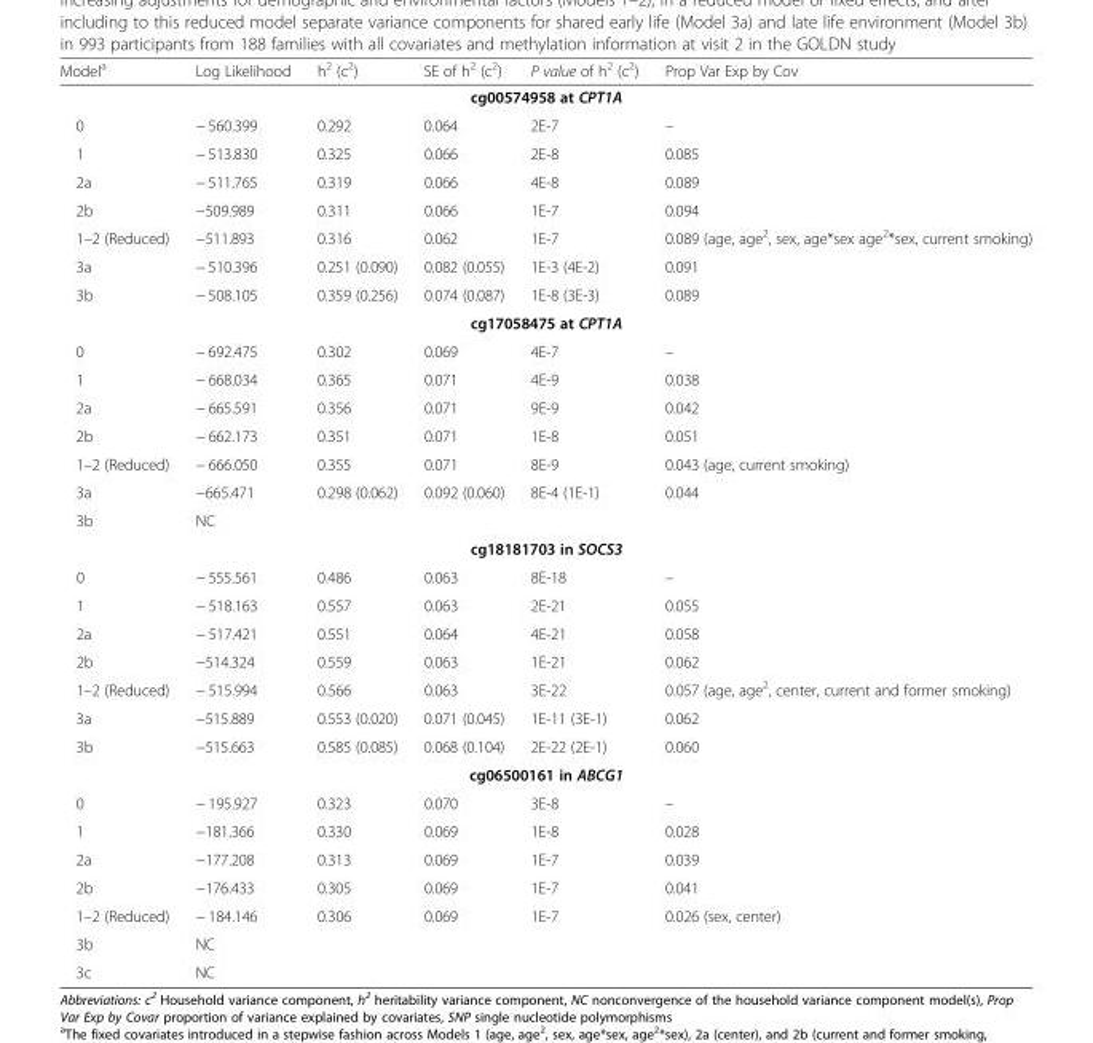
<table><thead><tr><td>Model<sup>a</sup></td><td>Log Likelihood</td><td>h<sup>2</sup> (c<sup>2</sup>)</td><td>SE of h<sup>2</sup> (c<sup>2</sup>)</td><td>P value of h<sup>2</sup> (c<sup>2</sup>)</td><td>Prop Var Exp by Cov</td></tr></thead><tbody><tr><td colspan="6">cg00574958 at CPT1A</td></tr><tr><td>0</td><td>− 560.399</td><td>0.292</td><td>0.064</td><td>2E-7</td><td>–</td></tr><tr><td>1</td><td>− 513.830</td><td>0.325</td><td>0.066</td><td>2E-8</td><td>0.085</td></tr><tr><td>2a</td><td>− 511.765</td><td>0.319</td><td>0.066</td><td>4E-8</td><td>0.089</td></tr><tr><td>2b</td><td>−509.989</td><td>0.311</td><td>0.066</td><td>1E-7</td><td>0.094</td></tr><tr><td>1–2 (Reduced)</td><td>−511.893</td><td>0.316</td><td>0.062</td><td>1E-7</td><td>0.089 (age, age<sup>2</sup>, sex, age*sex age<sup>2</sup>*sex, current smoking)</td></tr><tr><td>3a</td><td>− 510.396</td><td>0.251 (0.090)</td><td>0.082 (0.055)</td><td>1E-3 (4E-2)</td><td>0.091</td></tr><tr><td>3b</td><td>− 508.105</td><td>0.359 (0.256)</td><td>0.074 (0.087)</td><td>1E-8 (3E-3)</td><td>0.089</td></tr><tr><td colspan="6">cg17058475 at CPT1A</td></tr><tr><td>0</td><td>− 692.475</td><td>0.302</td><td>0.069</td><td>4E-7</td><td>–</td></tr><tr><td>1</td><td>− 668.034</td><td>0.365</td><td>0.071</td><td>4E-9</td><td>0.038</td></tr><tr><td>2a</td><td>− 665.591</td><td>0.356</td><td>0.071</td><td>9E-9</td><td>0.042</td></tr><tr><td>2b</td><td>− 662.173</td><td>0.351</td><td>0.071</td><td>1E-8</td><td>0.051</td></tr><tr><td>1–2 (Reduced)</td><td>− 666.050</td><td>0.355</td><td>0.071</td><td>8E-9</td><td>0.043 (age, current smoking)</td></tr><tr><td>3a</td><td>−665.471</td><td>0.298 (0.062)</td><td>0.092 (0.060)</td><td>8E-4 (1E-1)</td><td>0.044</td></tr><tr><td>3b</td><td>NC</td><td></td><td></td><td></td><td></td></tr><tr><td colspan="6">cg18181703 in SOCS3</td></tr><tr><td>0</td><td>− 555.561</td><td>0.486</td><td>0.063</td><td>8E-18</td><td>–</td></tr><tr><td>1</td><td>− 518.163</td><td>0.557</td><td>0.063</td><td>2E-21</td><td>0.055</td></tr><tr><td>2a</td><td>− 517.421</td><td>0.551</td><td>0.064</td><td>4E-21</td><td>0.058</td></tr><tr><td>2b</td><td>−514.324</td><td>0.559</td><td>0.063</td><td>1E-21</td><td>0.062</td></tr><tr><td>1–2 (Reduced)</td><td>− 515.994</td><td>0.566</td><td>0.063</td><td>3E-22</td><td>0.057 (age, age<sup>2</sup>, center, current and former smoking)</td></tr><tr><td>3a</td><td>−515.889</td><td>0.553 (0.020)</td><td>0.071 (0.045)</td><td>1E-11 (3E-1)</td><td>0.062</td></tr><tr><td>3b</td><td>−515.663</td><td>0.585 (0.085)</td><td>0.068 (0.104)</td><td>2E-22 (2E-1)</td><td>0.060</td></tr><tr><td colspan="6">cg06500161 in ABCG1</td></tr><tr><td>0</td><td>− 195.927</td><td>0.323</td><td>0.070</td><td>3E-8</td><td>–</td></tr><tr><td>1</td><td>−181.366</td><td>0.330</td><td>0.069</td><td>1E-8</td><td>0.028</td></tr><tr><td>2a</td><td>−177.208</td><td>0.313</td><td>0.069</td><td>1E-7</td><td>0.039</td></tr><tr><td>2b</td><td>−176.433</td><td>0.305</td><td>0.069</td><td>1E-7</td><td>0.041</td></tr><tr><td>1–2 (Reduced)</td><td>− 184.146</td><td>0.306</td><td>0.069</td><td>1E-7</td><td>0.026 (sex, center)</td></tr><tr><td>3b</td><td>NC</td><td></td><td></td><td></td><td></td></tr><tr><td>3c</td><td>NC</td><td></td><td></td><td></td><td></td></tr></tbody></table>